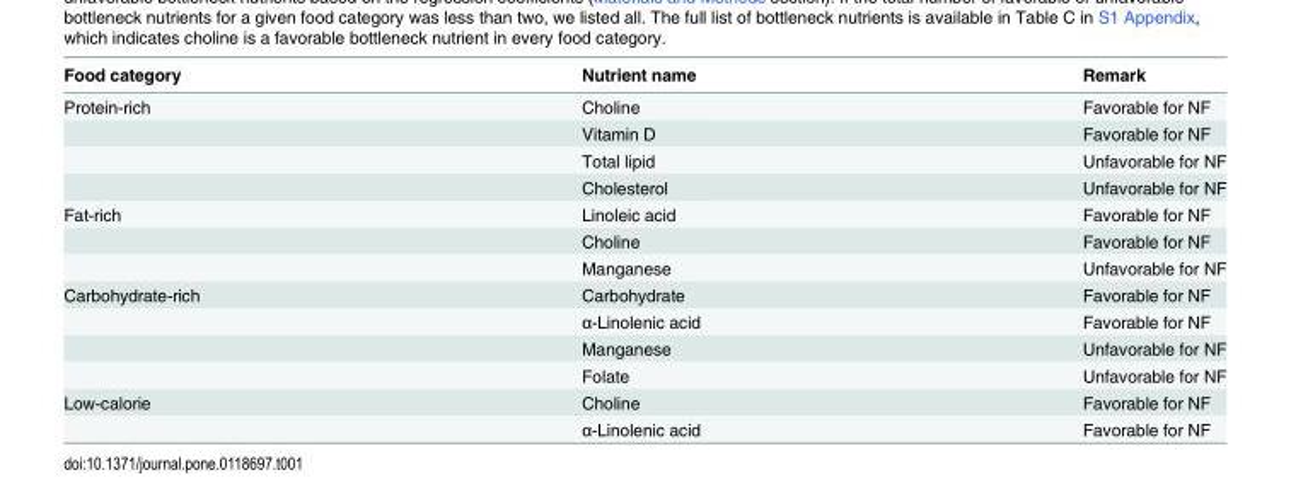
<table><thead><tr><td>Food category</td><td>Nutrient name</td><td>Remark</td></tr></thead><tbody><tr><td rowspan="4">Protein-rich</td><td>Choline</td><td>Favorable for NF</td></tr><tr><td>Vitamin D</td><td>Favorable for NF</td></tr><tr><td>Total lipid</td><td>Unfavorable for NF</td></tr><tr><td>Cholesterol</td><td>Unfavorable for NF</td></tr><tr><td rowspan="3">Fat-rich</td><td>Linoleic acid</td><td>Favorable for NF</td></tr><tr><td>Choline</td><td>Favorable for NF</td></tr><tr><td>Manganese</td><td>Unfavorable for NF</td></tr><tr><td rowspan="4">Carbohydrate-rich</td><td>Carbohydrate</td><td>Favorable for NF</td></tr><tr><td>α-Linolenic acid</td><td>Favorable for NF</td></tr><tr><td>Manganese</td><td>Unfavorable for NF</td></tr><tr><td>Folate</td><td>Unfavorable for NF</td></tr><tr><td rowspan="2">Low-calorie</td><td>Choline</td><td>Favorable for NF</td></tr><tr><td>α-Linolenic acid</td><td>Favorable for NF</td></tr></tbody></table>